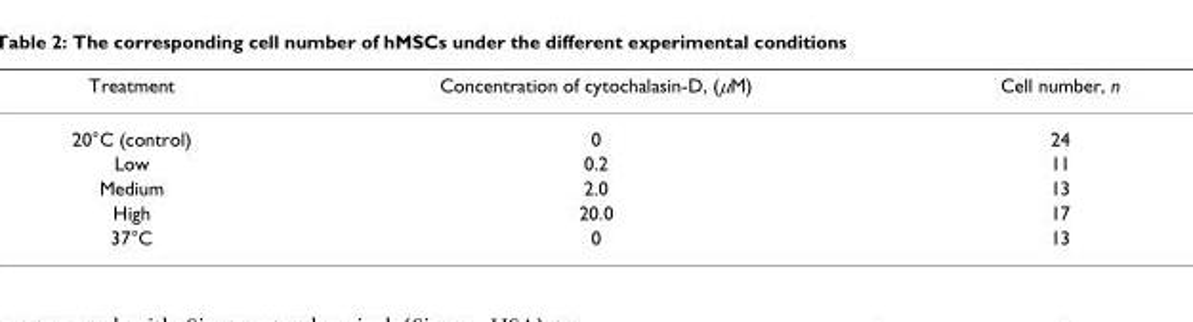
<table><thead><tr><td>Treatment</td><td>Concentration of cytochalasin-D, (μM)</td><td>Cell number, n</td></tr></thead><tbody><tr><td>20°C (control)</td><td>0</td><td>24</td></tr><tr><td>Low</td><td>0.2</td><td>11</td></tr><tr><td>Medium</td><td>2.0</td><td>13</td></tr><tr><td>High</td><td>20.0</td><td>17</td></tr><tr><td>37°C</td><td>0</td><td>13</td></tr></tbody></table>